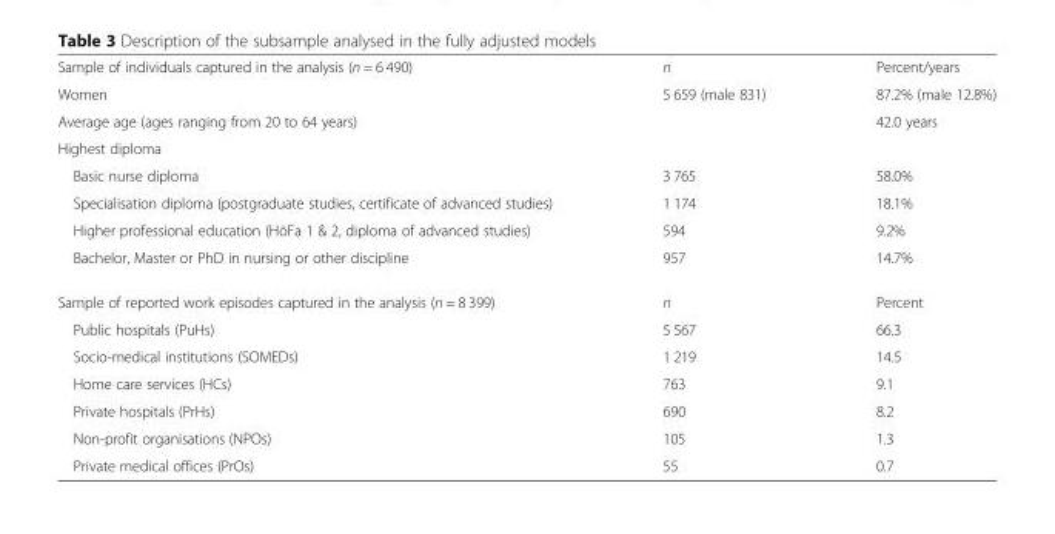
<table><tbody><tr><td>Sample of individuals captured in the analysis (n = 6 490)</td><td>n</td><td>Percent/years</td></tr><tr><td>Women</td><td>5 659 (male 831)</td><td>87.2% (male 12.8%)</td></tr><tr><td>Average age (ages ranging from 20 to 64 years)</td><td></td><td>42.0 years</td></tr><tr><td colspan="3">Highest diploma</td></tr><tr><td>Basic nurse diploma</td><td>3 765</td><td>58.0%</td></tr><tr><td>Specialisation diploma (postgraduate studies, certificate of advanced studies)</td><td>1 174</td><td>18.1%</td></tr><tr><td>Higher professional education (HöFa 1 &amp; 2, diploma of advanced studies)</td><td>594</td><td>9.2%</td></tr><tr><td>Bachelor, Master or PhD in nursing or other discipline</td><td>957</td><td>14.7%</td></tr><tr><td>Sample of reported work episodes captured in the analysis (n = 8 399)</td><td>n</td><td>Percent</td></tr><tr><td>Public hospitals (PuHs)</td><td>5 567</td><td>66.3</td></tr><tr><td>Socio-medical institutions (SOMEDs)</td><td>1 219</td><td>14.5</td></tr><tr><td>Home care services (HCs)</td><td>763</td><td>9.1</td></tr><tr><td>Private hospitals (PrHs)</td><td>690</td><td>8.2</td></tr><tr><td>Non-profit organisations (NPOs)</td><td>105</td><td>1.3</td></tr><tr><td>Private medical offices (PrOs)</td><td>55</td><td>0.7</td></tr></tbody></table>